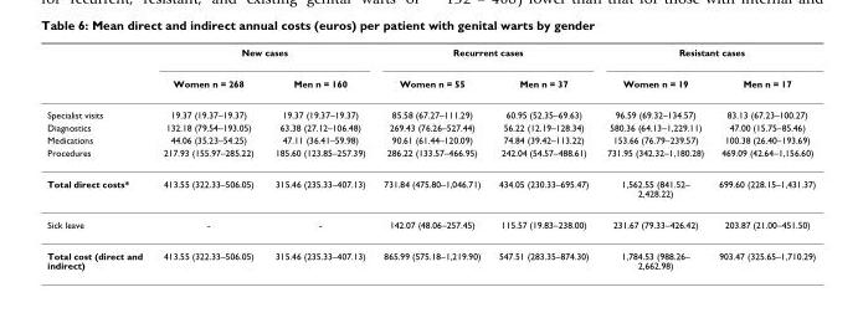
<table><thead><tr><td rowspan="2"></td><td colspan="2">New cases</td><td colspan="2">Recurrent cases</td><td colspan="2">Resistant cases</td></tr><tr><td>Women n = 268</td><td>Men n = 160</td><td>Women n = 55</td><td>Men n = 37</td><td>Women n = 19</td><td>Men n = 17</td></tr></thead><tbody><tr><td>Specialist visits</td><td>19.37 (19.37–19.37)</td><td>19.37 (19.37–19.37)</td><td>85.58 (67.27–111.29)</td><td>60.95 (52.35–69.63)</td><td>96.59 (69.32–134.57)</td><td>83.13 (67.23–100.27)</td></tr><tr><td>Diagnostics</td><td>132.18 (79.54–193.05)</td><td>63.38 (27.12–106.48)</td><td>269.43 (76.26–527.44)</td><td>56.22 (12.19–128.34)</td><td>580.36 (64.13–1,229.11)</td><td>47.00 (15.75–85.46)</td></tr><tr><td>Medications</td><td>44.06 (35.23–54.25)</td><td>47.11 (36.41–59.98)</td><td>90.61 (61.44–120.09)</td><td>74.84 (39.42–113.22)</td><td>153.66 (76.79–239.57)</td><td>100.38 (26.40–193.69)</td></tr><tr><td>Procedures</td><td>217.93 (155.97–285.22)</td><td>185.60 (123.85–257.39)</td><td>286.22 (133.57–466.95)</td><td>242.04 (54.57–488.61)</td><td>731.95 (342.32–1,180.28)</td><td>469.09 (42.64–1,156.60)</td></tr><tr><td>Total direct costs*</td><td>413.55 (322.33–506.05)</td><td>315.46 (235.33–407.13)</td><td>731.84 (475.80–1,046.71)</td><td>434.05 (230.33–695.47)</td><td>1,562.55 (841.52– 2,428.22)</td><td>699.60 (228.15–1,431.37)</td></tr><tr><td>Sick leave</td><td>-</td><td>-</td><td>142.07 (48.06–257.45)</td><td>115.57 (19.83–238.00)</td><td>231.67 (79.33–426.42)</td><td>203.87 (21.00–451.50)</td></tr><tr><td>Total cost (direct and indirect)</td><td>413.55 (322.33–506.05)</td><td>315.46 (235.33–407.13)</td><td>865.99 (575.18–1,219.90)</td><td>547.51 (283.35–874.30)</td><td>1,784.53 (988.26– 2,662.98)</td><td>903.47 (325.65–1,710.29)</td></tr></tbody></table>